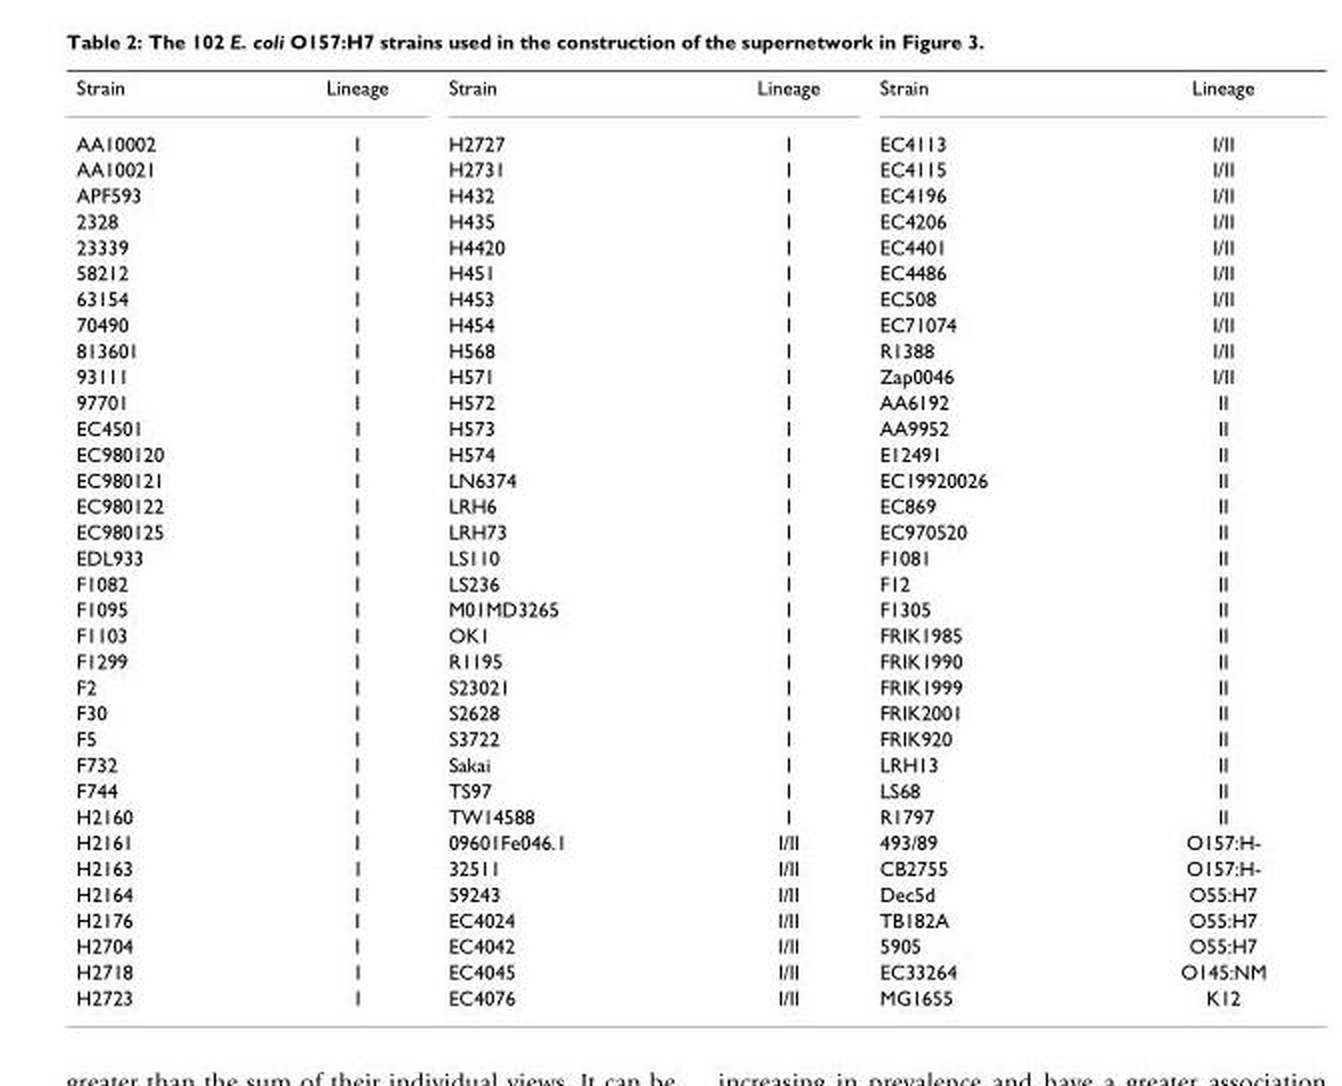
<table><tbody><tr><td>Strain</td><td>Lineage</td><td>Strain</td><td>Lineage</td><td>Strain</td><td>Lineage</td></tr><tr><td>AA10002</td><td>I</td><td>H2727</td><td>I</td><td>EC4113</td><td>I/II</td></tr><tr><td>AA10021</td><td>I</td><td>H2731</td><td>I</td><td>EC4115</td><td>I/II</td></tr><tr><td>APF593</td><td>I</td><td>H432</td><td>I</td><td>EC4196</td><td>I/II</td></tr><tr><td>2328</td><td>I</td><td>H435</td><td>I</td><td>EC4206</td><td>I/II</td></tr><tr><td>23339</td><td>I</td><td>H4420</td><td>I</td><td>EC4401</td><td>I/II</td></tr><tr><td>58212</td><td>I</td><td>H451</td><td>I</td><td>EC4486</td><td>I/II</td></tr><tr><td>63154</td><td>I</td><td>H453</td><td>I</td><td>EC508</td><td>I/II</td></tr><tr><td>70490</td><td>I</td><td>H454</td><td>I</td><td>EC71074</td><td>I/II</td></tr><tr><td>813601</td><td>I</td><td>H568</td><td>I</td><td>R1388</td><td>I/II</td></tr><tr><td>93111</td><td>I</td><td>H571</td><td>I</td><td>Zap0046</td><td>I/II</td></tr><tr><td>97701</td><td>I</td><td>H572</td><td>I</td><td>AA6192</td><td>II</td></tr><tr><td>EC4501</td><td>I</td><td>H573</td><td>I</td><td>AA9952</td><td>II</td></tr><tr><td>EC980120</td><td>I</td><td>H574</td><td>I</td><td>E12491</td><td>II</td></tr><tr><td>EC980121</td><td>I</td><td>LN6374</td><td>I</td><td>EC19920026</td><td>II</td></tr><tr><td>EC980122</td><td>I</td><td>LRH6</td><td>I</td><td>EC869</td><td>II</td></tr><tr><td>EC980125</td><td>I</td><td>LRH73</td><td>I</td><td>EC970520</td><td>II</td></tr><tr><td>EDL933</td><td>I</td><td>LS110</td><td>I</td><td>F1081</td><td>II</td></tr><tr><td>F1082</td><td>I</td><td>LS236</td><td>I</td><td>F12</td><td>II</td></tr><tr><td>F1095</td><td>I</td><td>M01MD3265</td><td>I</td><td>F1305</td><td>II</td></tr><tr><td>F1103</td><td>I</td><td>OK1</td><td>I</td><td>FRIK1985</td><td>II</td></tr><tr><td>F1299</td><td>I</td><td>R1195</td><td>I</td><td>FRIK1990</td><td>II</td></tr><tr><td>F2</td><td>I</td><td>S23021</td><td>I</td><td>FRIK1999</td><td>II</td></tr><tr><td>F30</td><td>I</td><td>S2628</td><td>I</td><td>FRIK2001</td><td>II</td></tr><tr><td>F5</td><td>I</td><td>S3722</td><td>I</td><td>FRIK920</td><td>II</td></tr><tr><td>F732</td><td>I</td><td>Sakai</td><td>I</td><td>LRH13</td><td>II</td></tr><tr><td>F744</td><td>I</td><td>TS97</td><td>I</td><td>LS68</td><td>II</td></tr><tr><td>H2160</td><td>I</td><td>TW14588</td><td>I</td><td>R1797</td><td>II</td></tr><tr><td>H2161</td><td>I</td><td>09601Fe046.1</td><td>I/II</td><td>493/89</td><td>O157:H-</td></tr><tr><td>H2163</td><td>I</td><td>32511</td><td>I/II</td><td>CB2755</td><td>O157:H-</td></tr><tr><td>H2164</td><td>I</td><td>59243</td><td>I/II</td><td>Dec5d</td><td>O55:H7</td></tr><tr><td>H2176</td><td>I</td><td>EC4024</td><td>I/II</td><td>TB182A</td><td>O55:H7</td></tr><tr><td>H2704</td><td>I</td><td>EC4042</td><td>I/II</td><td>5905</td><td>O55:H7</td></tr><tr><td>H2718</td><td>I</td><td>EC4045</td><td>I/II</td><td>EC33264</td><td>O145:NM</td></tr><tr><td>H2723</td><td>I</td><td>EC4076</td><td>I/II</td><td>MG1655</td><td>K12</td></tr></tbody></table>